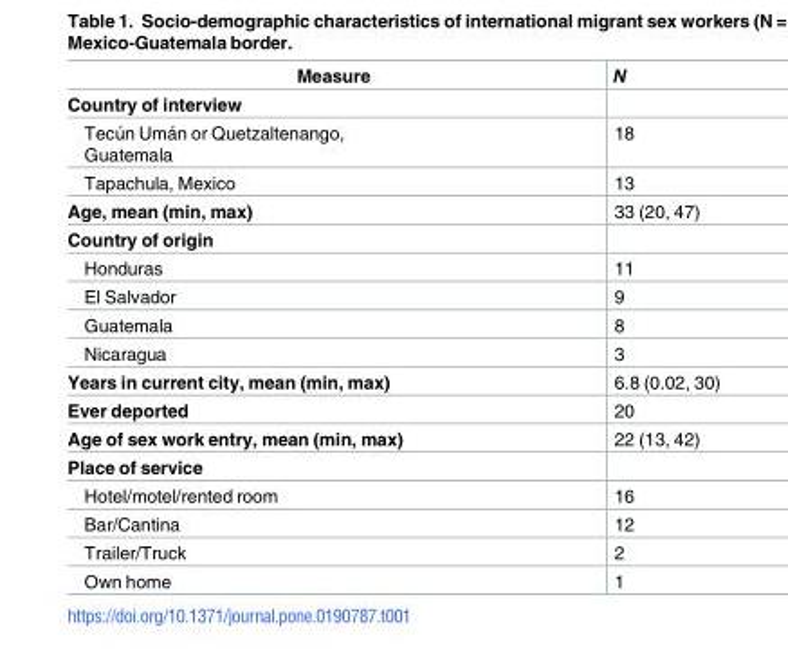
<table><thead><tr><td>Measure</td><td>N</td></tr></thead><tbody><tr><td colspan="2">Country of interview</td></tr><tr><td>Tecu´n Uma´n or Quetzaltenango, Guatemala</td><td>18</td></tr><tr><td>Tapachula, Mexico</td><td>13</td></tr><tr><td>Age, mean (min, max)</td><td>33 (20, 47)</td></tr><tr><td colspan="2">Country of origin</td></tr><tr><td>Honduras</td><td>11</td></tr><tr><td>El Salvador</td><td>9</td></tr><tr><td>Guatemala</td><td>8</td></tr><tr><td>Nicaragua</td><td>3</td></tr><tr><td>Years in current city, mean (min, max)</td><td>6.8 (0.02, 30)</td></tr><tr><td>Ever deported</td><td>20</td></tr><tr><td>Age of sex work entry, mean (min, max)</td><td>22 (13, 42)</td></tr><tr><td colspan="2">Place of service</td></tr><tr><td>Hotel/motel/rented room</td><td>16</td></tr><tr><td>Bar/Cantina</td><td>12</td></tr><tr><td>Trailer/Truck</td><td>2</td></tr><tr><td>Own home</td><td>1</td></tr></tbody></table>